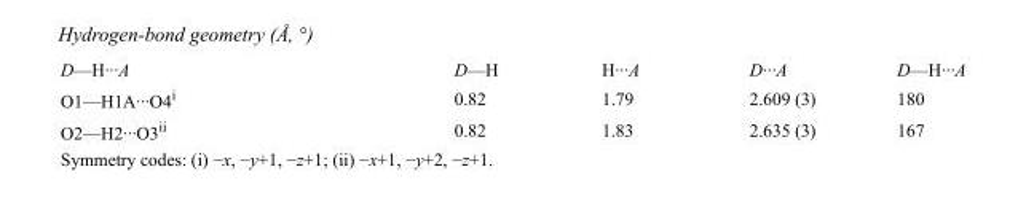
<table><tbody><tr><td>D—H···A</td><td>D—H</td><td>H···A</td><td>D···A</td><td>D—H···A</td></tr><tr><td>O1—H1A···O4<sup>i</sup></td><td>0.82</td><td>1.79</td><td>2.609 (3)</td><td>180</td></tr><tr><td>O2—H2···O3<sup>ii</sup></td><td>0.82</td><td>1.83</td><td>2.635 (3)</td><td>167</td></tr></tbody></table>